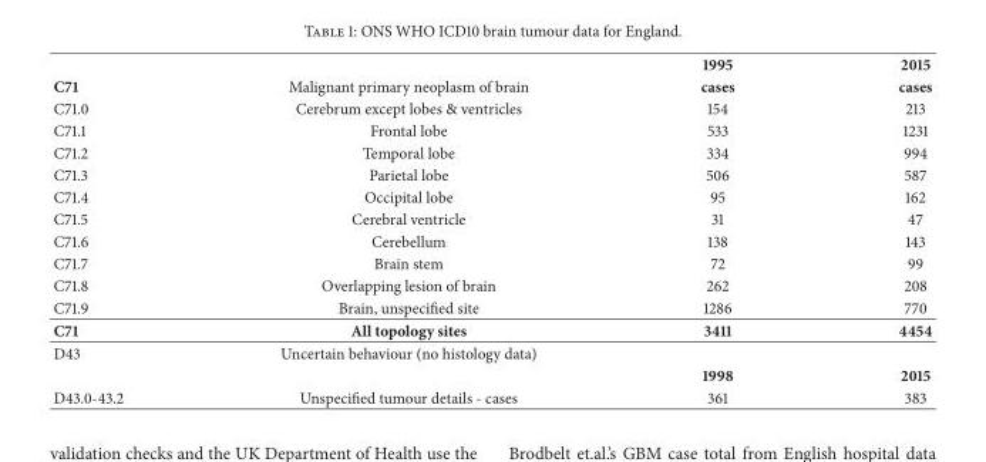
<table><thead><tr><td></td><td></td><td>1995</td><td>2015</td></tr></thead><tbody><tr><td>C71</td><td>Malignant primary neoplasm of brain</td><td>cases</td><td>cases</td></tr><tr><td>C71.0</td><td>Cerebrum except lobes &amp; ventricles</td><td>154</td><td>213</td></tr><tr><td>C71.1</td><td>Frontal lobe</td><td>533</td><td>1231</td></tr><tr><td>C71.2</td><td>Temporal lobe</td><td>334</td><td>994</td></tr><tr><td>C71.3</td><td>Parietal lobe</td><td>506</td><td>587</td></tr><tr><td>C71.4</td><td>Occipital lobe</td><td>95</td><td>162</td></tr><tr><td>C71.5</td><td>Cerebral ventricle</td><td>31</td><td>47</td></tr><tr><td>C71.6</td><td>Cerebellum</td><td>138</td><td>143</td></tr><tr><td>C71.7</td><td>Brain stem</td><td>72</td><td>99</td></tr><tr><td>C71.8</td><td>Overlapping lesion of brain</td><td>262</td><td>208</td></tr><tr><td>C71.9</td><td>Brain, unspecified site</td><td>1286</td><td>770</td></tr><tr><td>C71</td><td>All topology sites</td><td>3411</td><td>4454</td></tr><tr><td rowspan="2">D43</td><td>Uncertain behaviour (no histology data)</td><td></td><td></td></tr><tr><td></td><td>1998</td><td>2015</td></tr><tr><td>D43.0-43.2</td><td>Unspecified tumour details - cases</td><td>361</td><td>383</td></tr></tbody></table>